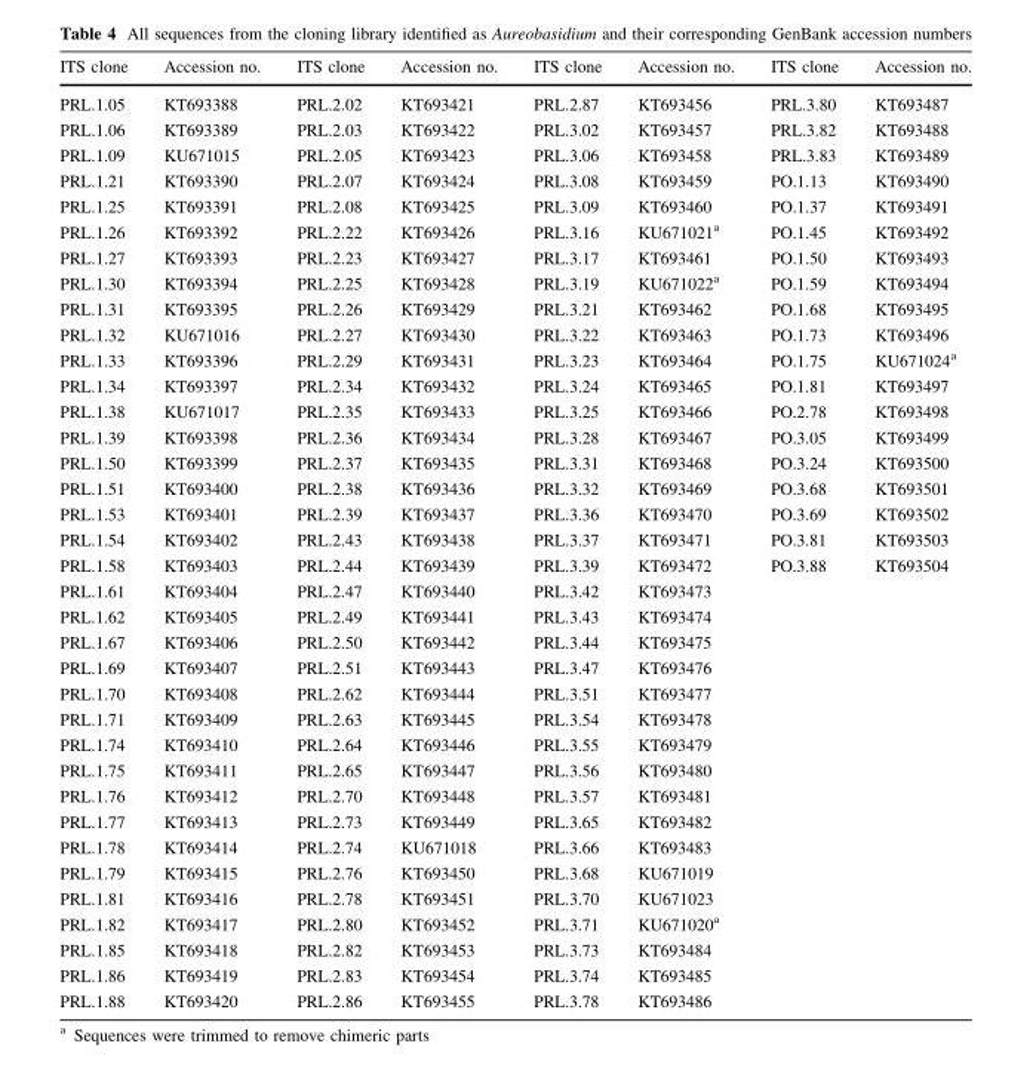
<table><thead><tr><td>ITS clone</td><td>Accession no.</td><td>ITS clone</td><td>Accession no.</td><td>ITS clone</td><td>Accession no.</td><td>ITS clone</td><td>Accession no.</td></tr></thead><tbody><tr><td>PRL.1.05</td><td>KT693388</td><td>PRL.2.02</td><td>KT693421</td><td>PRL.2.87</td><td>KT693456</td><td>PRL.3.80</td><td>KT693487</td></tr><tr><td>PRL.1.06</td><td>KT693389</td><td>PRL.2.03</td><td>KT693422</td><td>PRL.3.02</td><td>KT693457</td><td>PRL.3.82</td><td>KT693488</td></tr><tr><td>PRL.1.09</td><td>KU671015</td><td>PRL.2.05</td><td>KT693423</td><td>PRL.3.06</td><td>KT693458</td><td>PRL.3.83</td><td>KT693489</td></tr><tr><td>PRL.1.21</td><td>KT693390</td><td>PRL.2.07</td><td>KT693424</td><td>PRL.3.08</td><td>KT693459</td><td>PO.1.13</td><td>KT693490</td></tr><tr><td>PRL.1.25</td><td>KT693391</td><td>PRL.2.08</td><td>KT693425</td><td>PRL.3.09</td><td>KT693460</td><td>PO.1.37</td><td>KT693491</td></tr><tr><td>PRL.1.26</td><td>KT693392</td><td>PRL.2.22</td><td>KT693426</td><td>PRL.3.16</td><td>KU671021<sup>a</sup></td><td>PO.1.45</td><td>KT693492</td></tr><tr><td>PRL.1.27</td><td>KT693393</td><td>PRL.2.23</td><td>KT693427</td><td>PRL.3.17</td><td>KT693461</td><td>PO.1.50</td><td>KT693493</td></tr><tr><td>PRL.1.30</td><td>KT693394</td><td>PRL.2.25</td><td>KT693428</td><td>PRL.3.19</td><td>KU671022<sup>a</sup></td><td>PO.1.59</td><td>KT693494</td></tr><tr><td>PRL.1.31</td><td>KT693395</td><td>PRL.2.26</td><td>KT693429</td><td>PRL.3.21</td><td>KT693462</td><td>PO.1.68</td><td>KT693495</td></tr><tr><td>PRL.1.32</td><td>KU671016</td><td>PRL.2.27</td><td>KT693430</td><td>PRL.3.22</td><td>KT693463</td><td>PO.1.73</td><td>KT693496</td></tr><tr><td>PRL.1.33</td><td>KT693396</td><td>PRL.2.29</td><td>KT693431</td><td>PRL.3.23</td><td>KT693464</td><td>PO.1.75</td><td>KU671024<sup>a</sup></td></tr><tr><td>PRL.1.34</td><td>KT693397</td><td>PRL.2.34</td><td>KT693432</td><td>PRL.3.24</td><td>KT693465</td><td>PO.1.81</td><td>KT693497</td></tr><tr><td>PRL.1.38</td><td>KU671017</td><td>PRL.2.35</td><td>KT693433</td><td>PRL.3.25</td><td>KT693466</td><td>PO.2.78</td><td>KT693498</td></tr><tr><td>PRL.1.39</td><td>KT693398</td><td>PRL.2.36</td><td>KT693434</td><td>PRL.3.28</td><td>KT693467</td><td>PO.3.05</td><td>KT693499</td></tr><tr><td>PRL.1.50</td><td>KT693399</td><td>PRL.2.37</td><td>KT693435</td><td>PRL.3.31</td><td>KT693468</td><td>PO.3.24</td><td>KT693500</td></tr><tr><td>PRL.1.51</td><td>KT693400</td><td>PRL.2.38</td><td>KT693436</td><td>PRL.3.32</td><td>KT693469</td><td>PO.3.68</td><td>KT693501</td></tr><tr><td>PRL.1.53</td><td>KT693401</td><td>PRL.2.39</td><td>KT693437</td><td>PRL.3.36</td><td>KT693470</td><td>PO.3.69</td><td>KT693502</td></tr><tr><td>PRL.1.54</td><td>KT693402</td><td>PRL.2.43</td><td>KT693438</td><td>PRL.3.37</td><td>KT693471</td><td>PO.3.81</td><td>KT693503</td></tr><tr><td>PRL.1.58</td><td>KT693403</td><td>PRL.2.44</td><td>KT693439</td><td>PRL.3.39</td><td>KT693472</td><td>PO.3.88</td><td>KT693504</td></tr><tr><td>PRL.1.61</td><td>KT693404</td><td>PRL.2.47</td><td>KT693440</td><td>PRL.3.42</td><td>KT693473</td><td></td><td></td></tr><tr><td>PRL.1.62</td><td>KT693405</td><td>PRL.2.49</td><td>KT693441</td><td>PRL.3.43</td><td>KT693474</td><td></td><td></td></tr><tr><td>PRL.1.67</td><td>KT693406</td><td>PRL.2.50</td><td>KT693442</td><td>PRL.3.44</td><td>KT693475</td><td></td><td></td></tr><tr><td>PRL.1.69</td><td>KT693407</td><td>PRL.2.51</td><td>KT693443</td><td>PRL.3.47</td><td>KT693476</td><td></td><td></td></tr><tr><td>PRL.1.70</td><td>KT693408</td><td>PRL.2.62</td><td>KT693444</td><td>PRL.3.51</td><td>KT693477</td><td></td><td></td></tr><tr><td>PRL.1.71</td><td>KT693409</td><td>PRL.2.63</td><td>KT693445</td><td>PRL.3.54</td><td>KT693478</td><td></td><td></td></tr><tr><td>PRL.1.74</td><td>KT693410</td><td>PRL.2.64</td><td>KT693446</td><td>PRL.3.55</td><td>KT693479</td><td></td><td></td></tr><tr><td>PRL.1.75</td><td>KT693411</td><td>PRL.2.65</td><td>KT693447</td><td>PRL.3.56</td><td>KT693480</td><td></td><td></td></tr><tr><td>PRL.1.76</td><td>KT693412</td><td>PRL.2.70</td><td>KT693448</td><td>PRL.3.57</td><td>KT693481</td><td></td><td></td></tr><tr><td>PRL.1.77</td><td>KT693413</td><td>PRL.2.73</td><td>KT693449</td><td>PRL.3.65</td><td>KT693482</td><td></td><td></td></tr><tr><td>PRL.1.78</td><td>KT693414</td><td>PRL.2.74</td><td>KU671018</td><td>PRL.3.66</td><td>KT693483</td><td></td><td></td></tr><tr><td>PRL.1.79</td><td>KT693415</td><td>PRL.2.76</td><td>KT693450</td><td>PRL.3.68</td><td>KU671019</td><td></td><td></td></tr><tr><td>PRL.1.81</td><td>KT693416</td><td>PRL.2.78</td><td>KT693451</td><td>PRL.3.70</td><td>KU671023</td><td></td><td></td></tr><tr><td>PRL.1.82</td><td>KT693417</td><td>PRL.2.80</td><td>KT693452</td><td>PRL.3.71</td><td>KU671020<sup>a</sup></td><td></td><td></td></tr><tr><td>PRL.1.85</td><td>KT693418</td><td>PRL.2.82</td><td>KT693453</td><td>PRL.3.73</td><td>KT693484</td><td></td><td></td></tr><tr><td>PRL.1.86</td><td>KT693419</td><td>PRL.2.83</td><td>KT693454</td><td>PRL.3.74</td><td>KT693485</td><td></td><td></td></tr><tr><td>PRL.1.88</td><td>KT693420</td><td>PRL.2.86</td><td>KT693455</td><td>PRL.3.78</td><td>KT693486</td><td></td><td></td></tr></tbody></table>